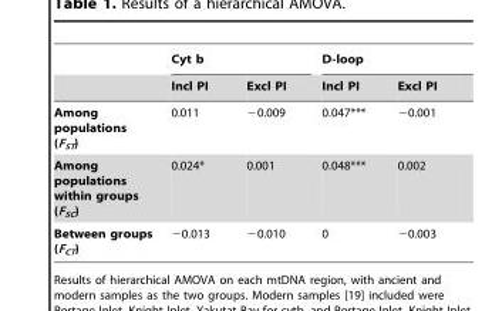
<table><thead><tr><td rowspan="2"></td><td colspan="2">Cyt b</td><td colspan="2">D-loop</td></tr><tr><td>Incl PI</td><td>Excl PI</td><td>Incl PI</td><td>Excl PI</td></tr></thead><tbody><tr><td>Among populations (F<sub>ST</sub>)</td><td>0.011</td><td>−0.009</td><td>0.047***</td><td>−0.001</td></tr><tr><td>Among populations within groups (F<sub>SC</sub>)</td><td>0.024*</td><td>0.001</td><td>0.048***</td><td>0.002</td></tr><tr><td>Between groups (F<sub>CT</sub>)</td><td>−0.013</td><td>−0.010</td><td>0</td><td>−0.003</td></tr></tbody></table>